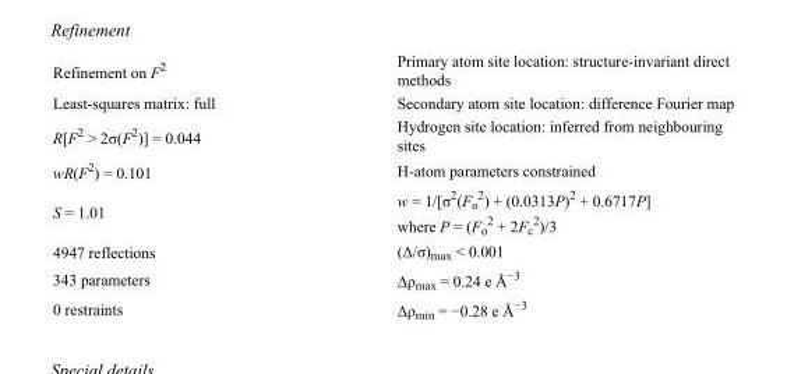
<table><tbody><tr><td>Refinement on F<sup>2</sup></td><td>Primary atom site location: structure-invariant direct methods</td></tr><tr><td>Least-squares matrix: full</td><td>Secondary atom site location: difference Fourier map</td></tr><tr><td>R[F<sup>2</sup> &gt; 2σ(F<sup>2</sup>)] = 0.044</td><td>Hydrogen site location: inferred from neighbouring sites</td></tr><tr><td>wR(F<sup>2</sup>) = 0.101</td><td>H-atom parameters constrained</td></tr><tr><td>S = 1.01</td><td>w = 1/[σ<sup>2</sup>(F<sub>o</sub> <sup>2</sup>) + (0.0313P)<sup>2</sup> + 0.6717P] where P = (F<sub>o</sub> <sup>2</sup> + 2F<sub>c</sub> <sup>2</sup>)/3</td></tr><tr><td>4947 reflections</td><td>(Δ/σ)<sub>max</sub> &lt; 0.001</td></tr><tr><td>343 parameters</td><td>Δρ<sub>max</sub> = 0.24 e Å<sup>−3</sup></td></tr><tr><td>0 restraints</td><td>Δρ<sub>min</sub> = −0.28 e Å<sup>−3</sup></td></tr></tbody></table>